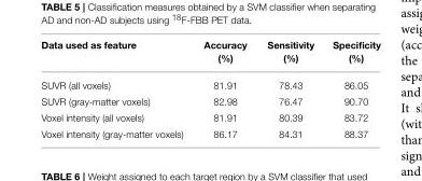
<table><thead><tr><td>Data used as feature</td><td>Accuracy (%)</td><td>Sensitivity (%)</td><td>Specificity (%)</td></tr></thead><tbody><tr><td>SUVR (all voxels)</td><td>81.91</td><td>78.43</td><td>86.05</td></tr><tr><td>SUVR (gray-matter voxels)</td><td>82.98</td><td>76.47</td><td>90.70</td></tr><tr><td>Voxel intensity (all voxels)</td><td>81.91</td><td>80.39</td><td>83.72</td></tr><tr><td>Voxel intensity (gray-matter voxels)</td><td>86.17</td><td>84.31</td><td>88.37</td></tr></tbody></table>